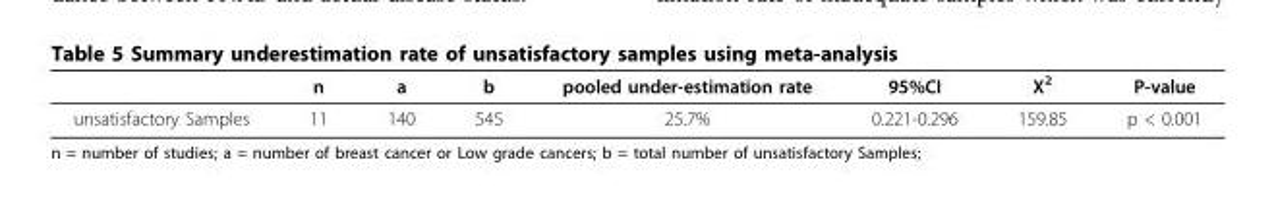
<table><thead><tr><td></td><td>n</td><td>a</td><td>b</td><td>pooled under-estimation rate</td><td>95%CI</td><td>X<sup>2</sup></td><td>P-value</td></tr></thead><tbody><tr><td>unsatisfactory Samples</td><td>11</td><td>140</td><td>545</td><td>25.7%</td><td>0.221-0.296</td><td>159.85</td><td>p &lt; 0.001</td></tr></tbody></table>